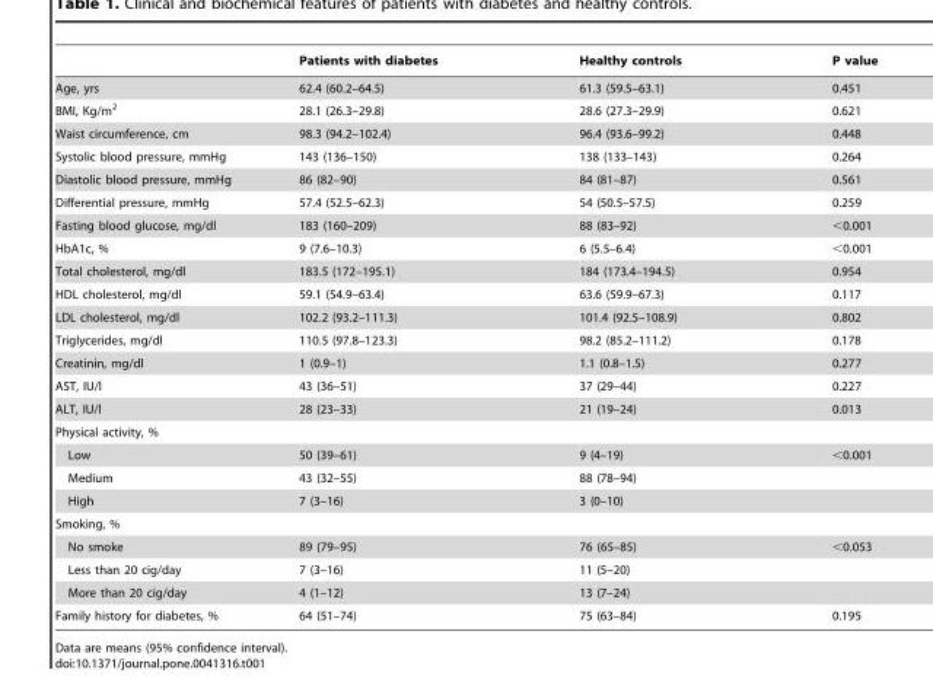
<table><thead><tr><td></td><td>Patients with diabetes</td><td>Healthy controls</td><td>P value</td></tr></thead><tbody><tr><td>Age, yrs</td><td>62.4 (60.2–64.5)</td><td>61.3 (59.5–63.1)</td><td>0.451</td></tr><tr><td>BMI, Kg/m<sup>2</sup></td><td>28.1 (26.3–29.8)</td><td>28.6 (27.3–29.9)</td><td>0.621</td></tr><tr><td>Waist circumference, cm</td><td>98.3 (94.2–102.4)</td><td>96.4 (93.6–99.2)</td><td>0.448</td></tr><tr><td>Systolic blood pressure, mmHg</td><td>143 (136–150)</td><td>138 (133–143)</td><td>0.264</td></tr><tr><td>Diastolic blood pressure, mmHg</td><td>86 (82–90)</td><td>84 (81–87)</td><td>0.561</td></tr><tr><td>Differential pressure, mmHg</td><td>57.4 (52.5–62.3)</td><td>54 (50.5–57.5)</td><td>0.259</td></tr><tr><td>Fasting blood glucose, mg/dl</td><td>183 (160–209)</td><td>88 (83–92)</td><td>&lt;0.001</td></tr><tr><td>HbA1c, %</td><td>9 (7.6–10.3)</td><td>6 (5.5–6.4)</td><td>&lt;0.001</td></tr><tr><td>Total cholesterol, mg/dl</td><td>183.5 (172–195.1)</td><td>184 (173.4–194.5)</td><td>0.954</td></tr><tr><td>HDL cholesterol, mg/dl</td><td>59.1 (54.9–63.4)</td><td>63.6 (59.9–67.3)</td><td>0.117</td></tr><tr><td>LDL cholesterol, mg/dl</td><td>102.2 (93.2–111.3)</td><td>101.4 (92.5–108.9)</td><td>0.802</td></tr><tr><td>Triglycerides, mg/dl</td><td>110.5 (97.8–123.3)</td><td>98.2 (85.2–111.2)</td><td>0.178</td></tr><tr><td>Creatinin, mg/dl</td><td>1 (0.9–1)</td><td>1.1 (0.8–1.5)</td><td>0.277</td></tr><tr><td>AST, IU/l</td><td>43 (36–51)</td><td>37 (29–44)</td><td>0.227</td></tr><tr><td>ALT, IU/l</td><td>28 (23–33)</td><td>21 (19–24)</td><td>0.013</td></tr><tr><td colspan="4">Physical activity, %</td></tr><tr><td>Low</td><td>50 (39–61)</td><td>9 (4–19)</td><td>&lt;0.001</td></tr><tr><td>Medium</td><td>43 (32–55)</td><td>88 (78–94)</td><td></td></tr><tr><td>High</td><td>7 (3–16)</td><td>3 (0–10)</td><td></td></tr><tr><td colspan="4">Smoking, %</td></tr><tr><td>No smoke</td><td>89 (79–95)</td><td>76 (65–85)</td><td>&lt;0.053</td></tr><tr><td>Less than 20 cig/day</td><td>7 (3–16)</td><td>11 (5–20)</td><td></td></tr><tr><td>More than 20 cig/day</td><td>4 (1–12)</td><td>13 (7–24)</td><td></td></tr><tr><td>Family history for diabetes, %</td><td>64 (51–74)</td><td>75 (63–84)</td><td>0.195</td></tr></tbody></table>